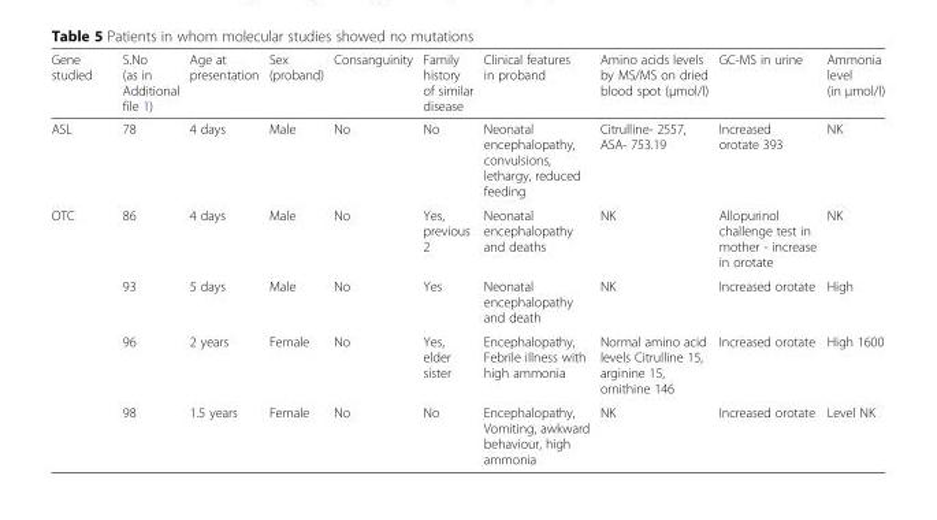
<table><thead><tr><td>Gene studied</td><td>S.No (as in Additional file 1)</td><td>Age at presentation</td><td>Sex (proband)</td><td>Consanguinity</td><td>Family history of similar disease</td><td>Clinical features in proband</td><td>Amino acids levels by MS/MS on dried blood spot (μmol/l)</td><td>GC-MS in urine</td><td>Ammonia level (in μmol/l)</td></tr></thead><tbody><tr><td>ASL</td><td>78</td><td>4 days</td><td>Male</td><td>No</td><td>No</td><td>Neonatal encephalopathy, convulsions, lethargy, reduced feeding</td><td>Citrulline- 2557, ASA- 753.19</td><td>Increased orotate 393</td><td>NK</td></tr><tr><td rowspan="4">OTC</td><td>86</td><td>4 days</td><td>Male</td><td>No</td><td>Yes, previous 2</td><td>Neonatal encephalopathy and deaths</td><td>NK</td><td>Allopurinol challenge test in mother - increase in orotate</td><td>NK</td></tr><tr><td>93</td><td>5 days</td><td>Male</td><td>No</td><td>Yes</td><td>Neonatal encephalopathy and death</td><td>NK</td><td>Increased orotate</td><td>High</td></tr><tr><td>96</td><td>2 years</td><td>Female</td><td>No</td><td>Yes, elder sister</td><td>Encephalopathy, Febrile illness with high ammonia</td><td>Normal amino acid levels Citrulline 15, arginine 15, ornithine 146</td><td>Increased orotate</td><td>High 1600</td></tr><tr><td>98</td><td>1.5 years</td><td>Female</td><td>No</td><td>No</td><td>Encephalopathy, Vomiting, awkward behaviour, high ammonia</td><td>NK</td><td>Increased orotate</td><td>Level NK</td></tr></tbody></table>